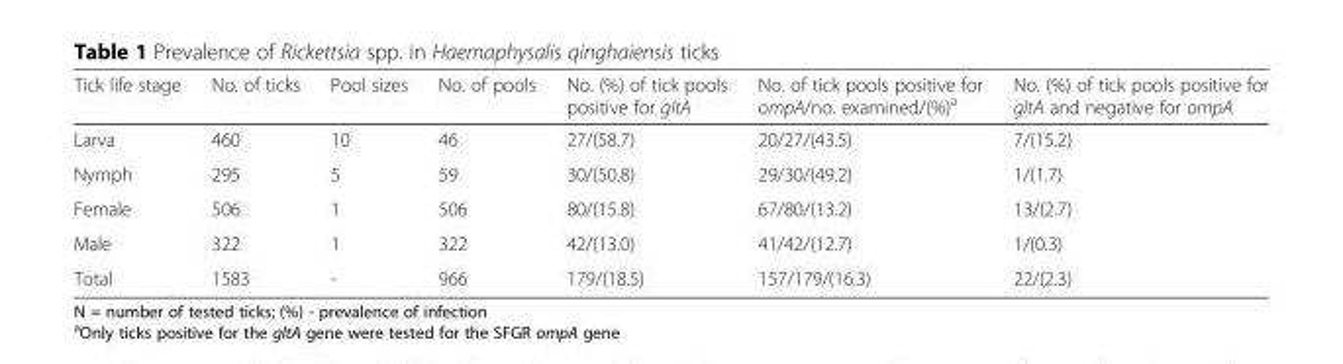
<table><thead><tr><td>Tick life stage</td><td>No. of ticks</td><td>Pool sizes</td><td>No. of pools</td><td>No. (%) of tick pools positive for gltA</td><td>No. of tick pools positive for ompA/no. examined/(%)<sup>a</sup></td><td>No. (%) of tick pools positive for gltA and negative for ompA</td></tr></thead><tbody><tr><td>Larva</td><td>460</td><td>10</td><td>46</td><td>27/(58.7)</td><td>20/27/(43.5)</td><td>7/(15.2)</td></tr><tr><td>Nymph</td><td>295</td><td>5</td><td>59</td><td>30/(50.8)</td><td>29/30/(49.2)</td><td>1/(1.7)</td></tr><tr><td>Female</td><td>506</td><td>1</td><td>506</td><td>80/(15.8)</td><td>67/80/(13.2)</td><td>13/(2.7)</td></tr><tr><td>Male</td><td>322</td><td>1</td><td>322</td><td>42/(13.0)</td><td>41/42/(12.7)</td><td>1/(0.3)</td></tr><tr><td>Total</td><td>1583</td><td>-</td><td>966</td><td>179/(18.5)</td><td>157/179/(16.3)</td><td>22/(2.3)</td></tr></tbody></table>